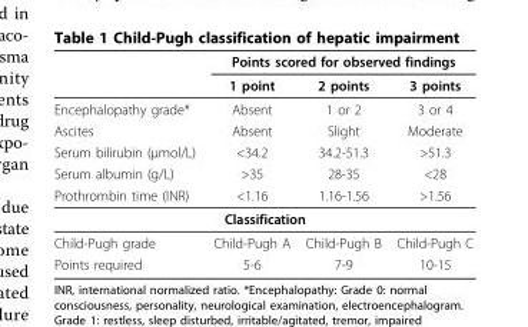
<table><thead><tr><td rowspan="2"></td><td colspan="3">Points scored for observed findings</td></tr><tr><td>1 point</td><td>2 points</td><td>3 points</td></tr></thead><tbody><tr><td>Encephalopathy grade*</td><td>Absent</td><td>1 or 2</td><td>3 or 4</td></tr><tr><td>Ascites</td><td>Absent</td><td>Slight</td><td>Moderate</td></tr><tr><td>Serum bilirubin (μmol/L)</td><td>&lt;34.2</td><td>34.2-51.3</td><td>&gt;51.3</td></tr><tr><td>Serum albumin (g/L)</td><td>&gt;35</td><td>28-35</td><td>&lt;28</td></tr><tr><td>Prothrombin time (INR)</td><td>&lt;1.16</td><td>1.16-1.56</td><td>&gt;1.56</td></tr><tr><td colspan="4">Classification</td></tr><tr><td>Child-Pugh grade</td><td>Child-Pugh A</td><td>Child-Pugh B</td><td>Child-Pugh C</td></tr><tr><td>Points required</td><td>5-6</td><td>7-9</td><td>10-15</td></tr></tbody></table>